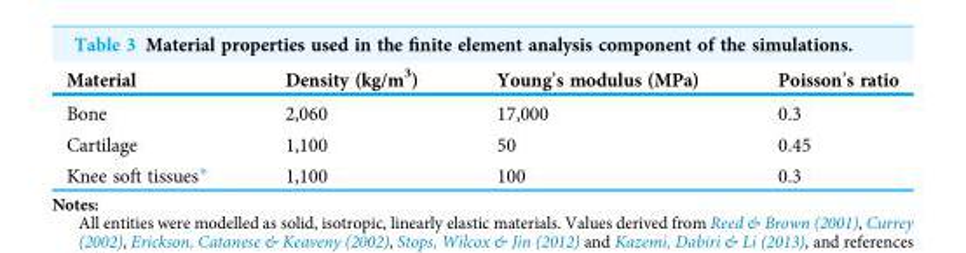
<table><thead><tr><td>Material</td><td>Density (kg/m<sup>3</sup>)</td><td>Young’s modulus (MPa)</td><td>Poisson’s ratio</td></tr></thead><tbody><tr><td>Bone</td><td>2,060</td><td>17,000</td><td>0.3</td></tr><tr><td>Cartilage</td><td>1,100</td><td>50</td><td>0.45</td></tr><tr><td>Knee soft tissues*</td><td>1,100</td><td>100</td><td>0.3</td></tr></tbody></table>